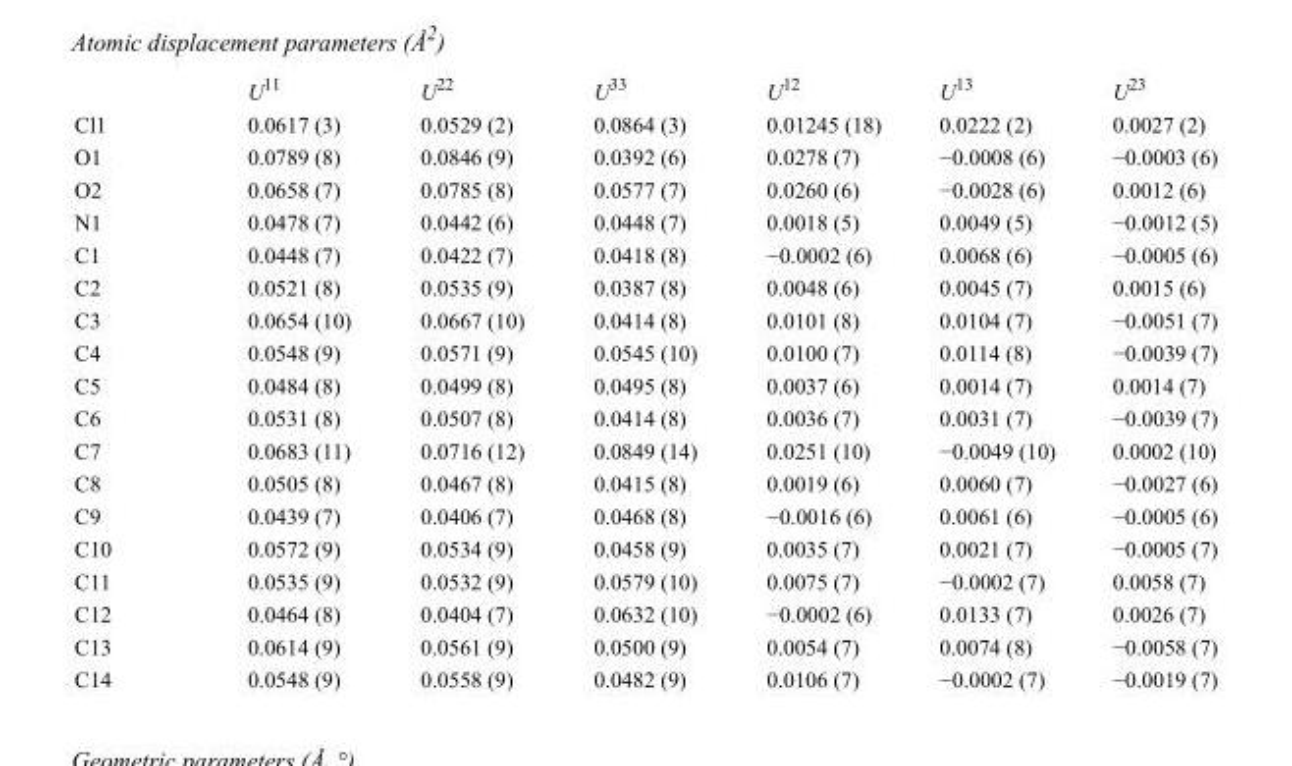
<table><thead><tr><td></td><td>U<sup>11</sup></td><td>U<sup>22</sup></td><td>U<sup>33</sup></td><td>U<sup>12</sup></td><td>U<sup>13</sup></td><td>U<sup>23</sup></td></tr></thead><tbody><tr><td>Cl1</td><td>0.0617 (3)</td><td>0.0529 (2)</td><td>0.0864 (3)</td><td>0.01245 (18)</td><td>0.0222 (2)</td><td>0.0027 (2)</td></tr><tr><td>O1</td><td>0.0789 (8)</td><td>0.0846 (9)</td><td>0.0392 (6)</td><td>0.0278 (7)</td><td>−0.0008 (6)</td><td>−0.0003 (6)</td></tr><tr><td>O2</td><td>0.0658 (7)</td><td>0.0785 (8)</td><td>0.0577 (7)</td><td>0.0260 (6)</td><td>−0.0028 (6)</td><td>0.0012 (6)</td></tr><tr><td>N1</td><td>0.0478 (7)</td><td>0.0442 (6)</td><td>0.0448 (7)</td><td>0.0018 (5)</td><td>0.0049 (5)</td><td>−0.0012 (5)</td></tr><tr><td>C1</td><td>0.0448 (7)</td><td>0.0422 (7)</td><td>0.0418 (8)</td><td>−0.0002 (6)</td><td>0.0068 (6)</td><td>−0.0005 (6)</td></tr><tr><td>C2</td><td>0.0521 (8)</td><td>0.0535 (9)</td><td>0.0387 (8)</td><td>0.0048 (6)</td><td>0.0045 (7)</td><td>0.0015 (6)</td></tr><tr><td>C3</td><td>0.0654 (10)</td><td>0.0667 (10)</td><td>0.0414 (8)</td><td>0.0101 (8)</td><td>0.0104 (7)</td><td>−0.0051 (7)</td></tr><tr><td>C4</td><td>0.0548 (9)</td><td>0.0571 (9)</td><td>0.0545 (10)</td><td>0.0100 (7)</td><td>0.0114 (8)</td><td>−0.0039 (7)</td></tr><tr><td>C5</td><td>0.0484 (8)</td><td>0.0499 (8)</td><td>0.0495 (8)</td><td>0.0037 (6)</td><td>0.0014 (7)</td><td>0.0014 (7)</td></tr><tr><td>C6</td><td>0.0531 (8)</td><td>0.0507 (8)</td><td>0.0414 (8)</td><td>0.0036 (7)</td><td>0.0031 (7)</td><td>−0.0039 (7)</td></tr><tr><td>C7</td><td>0.0683 (11)</td><td>0.0716 (12)</td><td>0.0849 (14)</td><td>0.0251 (10)</td><td>−0.0049 (10)</td><td>0.0002 (10)</td></tr><tr><td>C8</td><td>0.0505 (8)</td><td>0.0467 (8)</td><td>0.0415 (8)</td><td>0.0019 (6)</td><td>0.0060 (7)</td><td>−0.0027 (6)</td></tr><tr><td>C9</td><td>0.0439 (7)</td><td>0.0406 (7)</td><td>0.0468 (8)</td><td>−0.0016 (6)</td><td>0.0061 (6)</td><td>−0.0005 (6)</td></tr><tr><td>C10</td><td>0.0572 (9)</td><td>0.0534 (9)</td><td>0.0458 (9)</td><td>0.0035 (7)</td><td>0.0021 (7)</td><td>−0.0005 (7)</td></tr><tr><td>C11</td><td>0.0535 (9)</td><td>0.0532 (9)</td><td>0.0579 (10)</td><td>0.0075 (7)</td><td>−0.0002 (7)</td><td>0.0058 (7)</td></tr><tr><td>C12</td><td>0.0464 (8)</td><td>0.0404 (7)</td><td>0.0632 (10)</td><td>−0.0002 (6)</td><td>0.0133 (7)</td><td>0.0026 (7)</td></tr><tr><td>C13</td><td>0.0614 (9)</td><td>0.0561 (9)</td><td>0.0500 (9)</td><td>0.0054 (7)</td><td>0.0074 (8)</td><td>−0.0058 (7)</td></tr><tr><td>C14</td><td>0.0548 (9)</td><td>0.0558 (9)</td><td>0.0482 (9)</td><td>0.0106 (7)</td><td>−0.0002 (7)</td><td>−0.0019 (7)</td></tr></tbody></table>